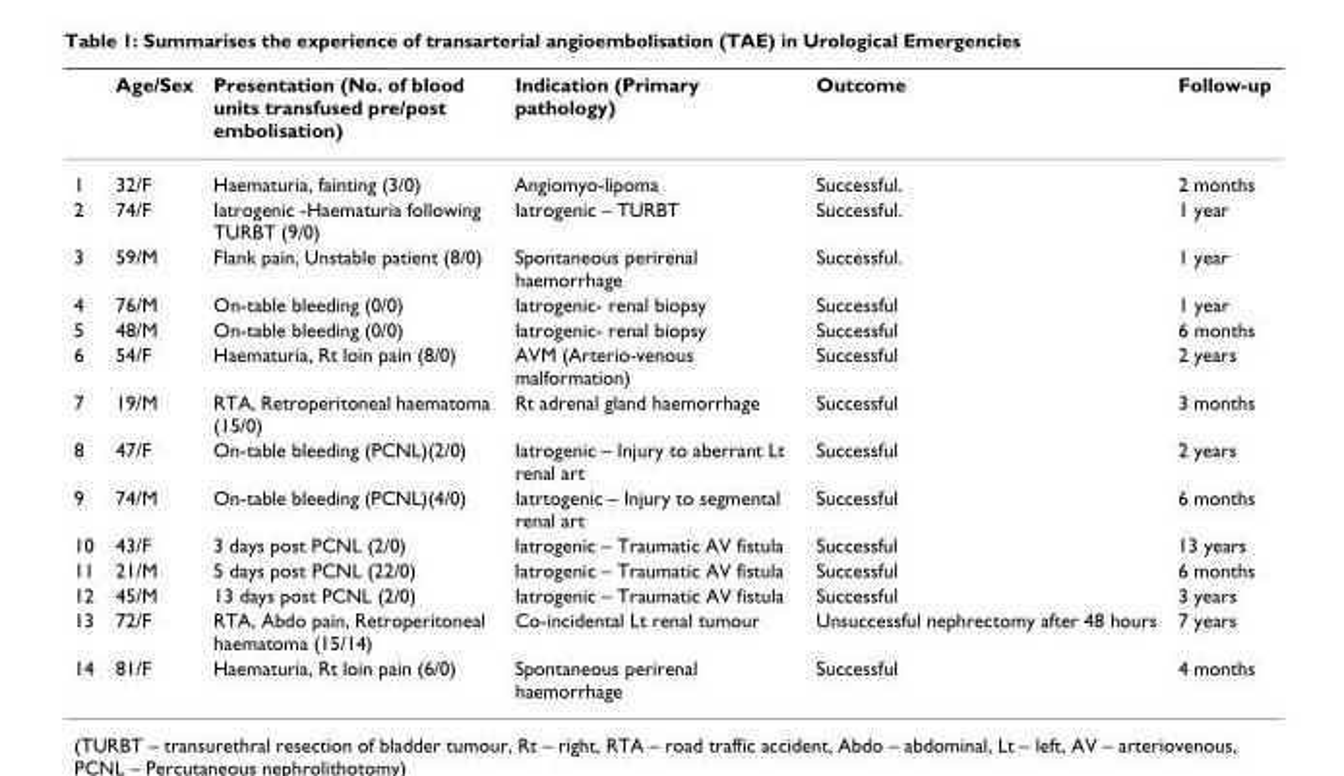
<table><thead><tr><td></td><td>Age/Sex</td><td>Presentation (No. of blood units transfused pre/post embolisation)</td><td>Indication (Primary pathology)</td><td>Outcome</td><td>Follow-up</td></tr></thead><tbody><tr><td>1</td><td>32/F</td><td>Haematuria, fainting (3/0)</td><td>Angiomyo-lipoma</td><td>Successful.</td><td>2 months</td></tr><tr><td>2</td><td>74/F</td><td>Iatrogenic -Haematuria following TURBT (9/0)</td><td>Iatrogenic – TURBT</td><td>Successful.</td><td>1 year</td></tr><tr><td>3</td><td>59/M</td><td>Flank pain, Unstable patient (8/0)</td><td>Spontaneous perirenal haemorrhage</td><td>Successful.</td><td>1 year</td></tr><tr><td>4</td><td>76/M</td><td>On-table bleeding (0/0)</td><td>Iatrogenic- renal biopsy</td><td>Successful</td><td>1 year</td></tr><tr><td>5</td><td>48/M</td><td>On-table bleeding (0/0)</td><td>Iatrogenic- renal biopsy</td><td>Successful</td><td>6 months</td></tr><tr><td>6</td><td>54/F</td><td>Haematuria, Rt loin pain (8/0)</td><td>AVM (Arterio-venous malformation)</td><td>Successful</td><td>2 years</td></tr><tr><td>7</td><td>19/M</td><td>RTA, Retroperitoneal haematoma (15/0)</td><td>Rt adrenal gland haemorrhage</td><td>Successful</td><td>3 months</td></tr><tr><td>8</td><td>47/F</td><td>On-table bleeding (PCNL)(2/0)</td><td>Iatrogenic – Injury to aberrant Lt renal art</td><td>Successful</td><td>2 years</td></tr><tr><td>9</td><td>74/M</td><td>On-table bleeding (PCNL)(4/0)</td><td>Iatrtogenic – Injury to segmental renal art</td><td>Successful</td><td>6 months</td></tr><tr><td>10</td><td>43/F</td><td>3 days post PCNL (2/0)</td><td>Iatrogenic – Traumatic AV fistula</td><td>Successful</td><td>13 years</td></tr><tr><td>11</td><td>21/M</td><td>5 days post PCNL (22/0)</td><td>Iatrogenic – Traumatic AV fistula</td><td>Successful</td><td>6 months</td></tr><tr><td>12</td><td>45/M</td><td>13 days post PCNL (2/0)</td><td>Iatrogenic – Traumatic AV fistula</td><td>Successful</td><td>3 years</td></tr><tr><td>13</td><td>72/F</td><td>RTA, Abdo pain, Retroperitoneal haematoma (15/14)</td><td>Co-incidental Lt renal tumour</td><td>Unsuccessful nephrectomy after 48 hours</td><td>7 years</td></tr><tr><td>14</td><td>81/F</td><td>Haematuria, Rt loin pain (6/0)</td><td>Spontaneous perirenal haemorrhage</td><td>Successful</td><td>4 months</td></tr></tbody></table>